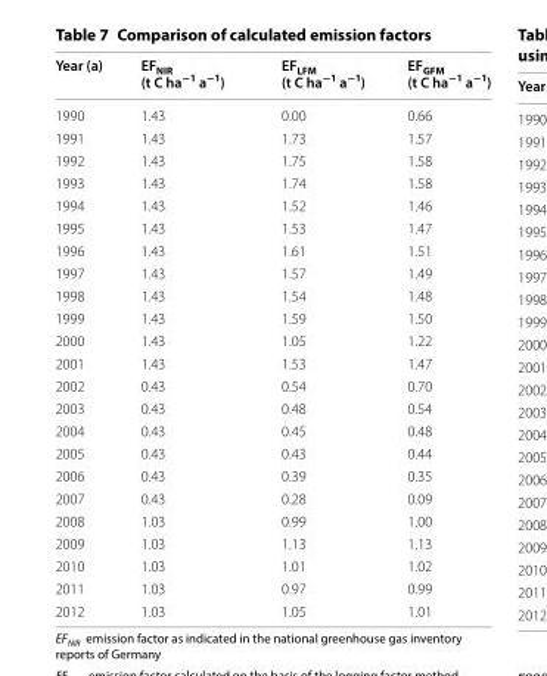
<table><thead><tr><td>Year (a)</td><td>EF<sub>NIR</sub> (t C ha<sup>−1</sup> a<sup>−1</sup>)</td><td>EF<sub>LFM</sub> (t C ha<sup>−1</sup> a<sup>−1</sup>)</td><td>EF<sub>GFM</sub> (t C ha<sup>−1</sup> a<sup>−1</sup>)</td></tr></thead><tbody><tr><td>1990</td><td>1.43</td><td>0.00</td><td>0.66</td></tr><tr><td>1991</td><td>1.43</td><td>1.73</td><td>1.57</td></tr><tr><td>1992</td><td>1.43</td><td>1.75</td><td>1.58</td></tr><tr><td>1993</td><td>1.43</td><td>1.74</td><td>1.58</td></tr><tr><td>1994</td><td>1.43</td><td>1.52</td><td>1.46</td></tr><tr><td>1995</td><td>1.43</td><td>1.53</td><td>1.47</td></tr><tr><td>1996</td><td>1.43</td><td>1.61</td><td>1.51</td></tr><tr><td>1997</td><td>1.43</td><td>1.57</td><td>1.49</td></tr><tr><td>1998</td><td>1.43</td><td>1.54</td><td>1.48</td></tr><tr><td>1999</td><td>1.43</td><td>1.59</td><td>1.50</td></tr><tr><td>2000</td><td>1.43</td><td>1.05</td><td>1.22</td></tr><tr><td>2001</td><td>1.43</td><td>1.53</td><td>1.47</td></tr><tr><td>2002</td><td>0.43</td><td>0.54</td><td>0.70</td></tr><tr><td>2003</td><td>0.43</td><td>0.48</td><td>0.54</td></tr><tr><td>2004</td><td>0.43</td><td>0.45</td><td>0.48</td></tr><tr><td>2005</td><td>0.43</td><td>0.43</td><td>0.44</td></tr><tr><td>2006</td><td>0.43</td><td>0.39</td><td>0.35</td></tr><tr><td>2007</td><td>0.43</td><td>0.28</td><td>0.09</td></tr><tr><td>2008</td><td>1.03</td><td>0.99</td><td>1.00</td></tr><tr><td>2009</td><td>1.03</td><td>1.13</td><td>1.13</td></tr><tr><td>2010</td><td>1.03</td><td>1.01</td><td>1.02</td></tr><tr><td>2011</td><td>1.03</td><td>0.97</td><td>0.99</td></tr><tr><td>2012</td><td>1.03</td><td>1.05</td><td>1.01</td></tr></tbody></table>